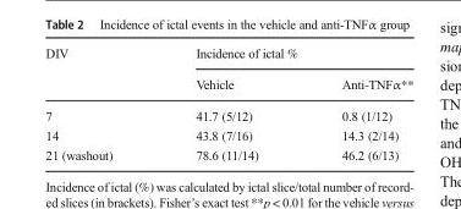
<table><thead><tr><td rowspan="2">DIV</td><td colspan="2">Incidence of ictal %</td></tr><tr><td>Vehicle</td><td>Anti-TNFα**</td></tr></thead><tbody><tr><td>7</td><td>41.7 (5/12)</td><td>0.8 (1/12)</td></tr><tr><td>14</td><td>43.8 (7/16)</td><td>14.3 (2/14)</td></tr><tr><td>21 (washout)</td><td>78.6 (11/14)</td><td>46.2 (6/13)</td></tr></tbody></table>